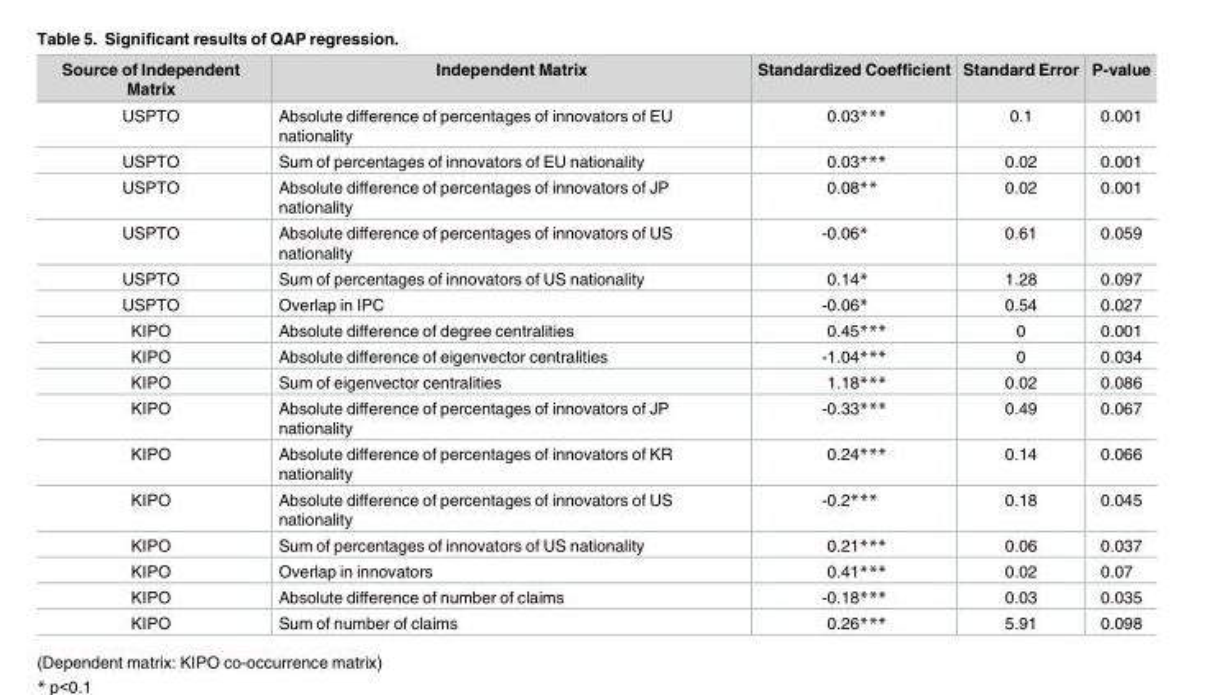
<table><thead><tr><td>Source of Independent Matrix</td><td>Independent Matrix</td><td>Standardized Coefficient</td><td>Standard Error</td><td>P-value</td></tr></thead><tbody><tr><td>USPTO</td><td>Absolute difference of percentages of innovators of EU nationality</td><td>0.03***</td><td>0.1</td><td>0.001</td></tr><tr><td>USPTO</td><td>Sum of percentages of innovators of EU nationality</td><td>0.03***</td><td>0.02</td><td>0.001</td></tr><tr><td>USPTO</td><td>Absolute difference of percentages of innovators of JP nationality</td><td>0.08**</td><td>0.02</td><td>0.001</td></tr><tr><td>USPTO</td><td>Absolute difference of percentages of innovators of US nationality</td><td>-0.06*</td><td>0.61</td><td>0.059</td></tr><tr><td>USPTO</td><td>Sum of percentages of innovators of US nationality</td><td>0.14*</td><td>1.28</td><td>0.097</td></tr><tr><td>USPTO</td><td>Overlap in IPC</td><td>-0.06*</td><td>0.54</td><td>0.027</td></tr><tr><td>KIPO</td><td>Absolute difference of degree centralities</td><td>0.45***</td><td>0</td><td>0.001</td></tr><tr><td>KIPO</td><td>Absolute difference of eigenvector centralities</td><td>-1.04***</td><td>0</td><td>0.034</td></tr><tr><td>KIPO</td><td>Sum of eigenvector centralities</td><td>1.18***</td><td>0.02</td><td>0.086</td></tr><tr><td>KIPO</td><td>Absolute difference of percentages of innovators of JP nationality</td><td>-0.33***</td><td>0.49</td><td>0.067</td></tr><tr><td>KIPO</td><td>Absolute difference of percentages of innovators of KR nationality</td><td>0.24***</td><td>0.14</td><td>0.066</td></tr><tr><td>KIPO</td><td>Absolute difference of percentages of innovators of US nationality</td><td>-0.2***</td><td>0.18</td><td>0.045</td></tr><tr><td>KIPO</td><td>Sum of percentages of innovators of US nationality</td><td>0.21***</td><td>0.06</td><td>0.037</td></tr><tr><td>KIPO</td><td>Overlap in innovators</td><td>0.41***</td><td>0.02</td><td>0.07</td></tr><tr><td>KIPO</td><td>Absolute difference of number of claims</td><td>-0.18***</td><td>0.03</td><td>0.035</td></tr><tr><td>KIPO</td><td>Sum of number of claims</td><td>0.26***</td><td>5.91</td><td>0.098</td></tr></tbody></table>